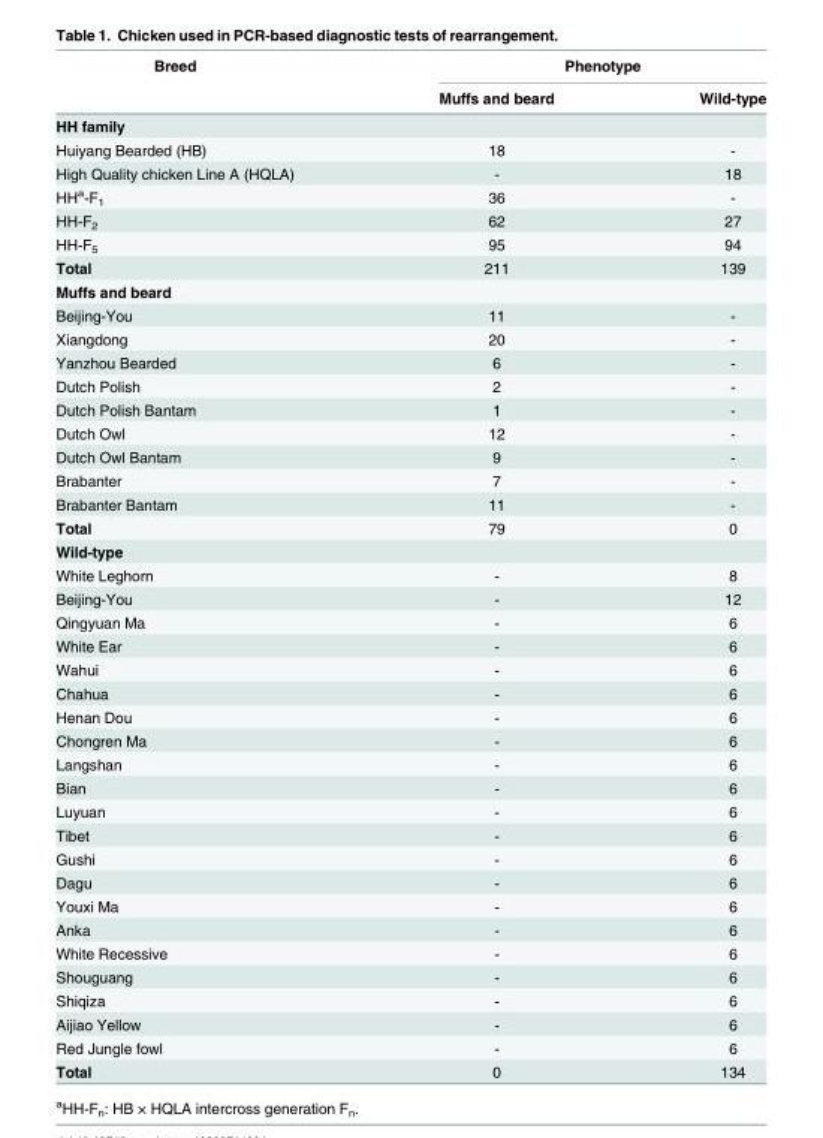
<table><thead><tr><td rowspan="2">Breed</td><td colspan="2">Phenotype</td></tr><tr><td>Muffs and beard</td><td>Wild-type</td></tr></thead><tbody><tr><td colspan="3">HH family</td></tr><tr><td>Huiyang Bearded (HB)</td><td>18</td><td>-</td></tr><tr><td>High Quality chicken Line A (HQLA)</td><td>-</td><td>18</td></tr><tr><td>HH<sup>a</sup>-F<sub>1</sub></td><td>36</td><td>-</td></tr><tr><td>HH-F<sub>2</sub></td><td>62</td><td>27</td></tr><tr><td>HH-F<sub>5</sub></td><td>95</td><td>94</td></tr><tr><td>Total</td><td>211</td><td>139</td></tr><tr><td colspan="3">Muffs and beard</td></tr><tr><td>Beijing-You</td><td>11</td><td>-</td></tr><tr><td>Xiangdong</td><td>20</td><td>-</td></tr><tr><td>Yanzhou Bearded</td><td>6</td><td>-</td></tr><tr><td>Dutch Polish</td><td>2</td><td>-</td></tr><tr><td>Dutch Polish Bantam</td><td>1</td><td>-</td></tr><tr><td>Dutch Owl</td><td>12</td><td>-</td></tr><tr><td>Dutch Owl Bantam</td><td>9</td><td>-</td></tr><tr><td>Brabanter</td><td>7</td><td>-</td></tr><tr><td>Brabanter Bantam</td><td>11</td><td>-</td></tr><tr><td>Total</td><td>79</td><td>0</td></tr><tr><td colspan="3">Wild-type</td></tr><tr><td>White Leghorn</td><td>-</td><td>8</td></tr><tr><td>Beijing-You</td><td>-</td><td>12</td></tr><tr><td>Qingyuan Ma</td><td>-</td><td>6</td></tr><tr><td>White Ear</td><td>-</td><td>6</td></tr><tr><td>Wahui</td><td>-</td><td>6</td></tr><tr><td>Chahua</td><td>-</td><td>6</td></tr><tr><td>Henan Dou</td><td>-</td><td>6</td></tr><tr><td>Chongren Ma</td><td>-</td><td>6</td></tr><tr><td>Langshan</td><td>-</td><td>6</td></tr><tr><td>Bian</td><td>-</td><td>6</td></tr><tr><td>Luyuan</td><td>-</td><td>6</td></tr><tr><td>Tibet</td><td>-</td><td>6</td></tr><tr><td>Gushi</td><td>-</td><td>6</td></tr><tr><td>Dagu</td><td>-</td><td>6</td></tr><tr><td>Youxi Ma</td><td>-</td><td>6</td></tr><tr><td>Anka</td><td>-</td><td>6</td></tr><tr><td>White Recessive</td><td>-</td><td>6</td></tr><tr><td>Shouguang</td><td>-</td><td>6</td></tr><tr><td>Shiqiza</td><td>-</td><td>6</td></tr><tr><td>Aijiao Yellow</td><td>-</td><td>6</td></tr><tr><td>Red Jungle fowl</td><td>-</td><td>6</td></tr><tr><td>Total</td><td>0</td><td>134</td></tr></tbody></table>